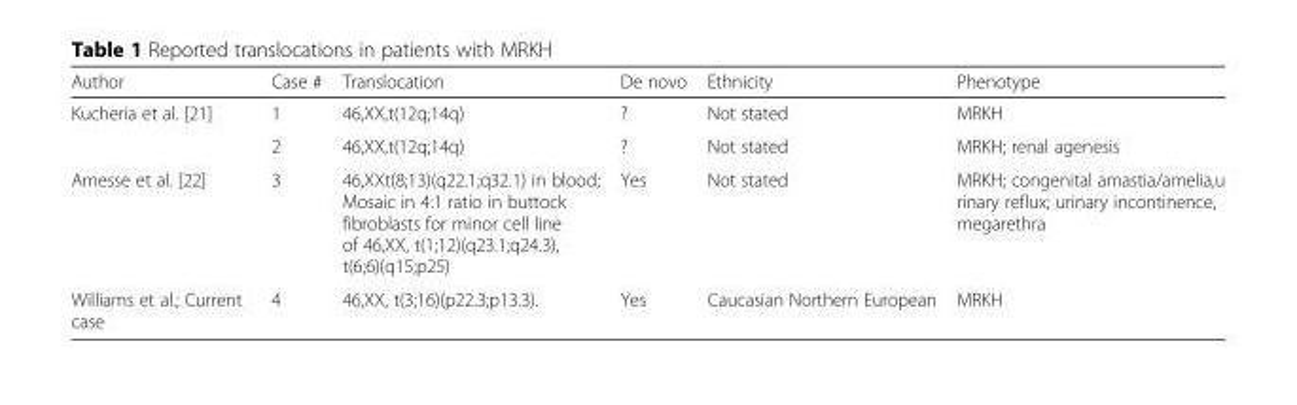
<table><thead><tr><td>Author</td><td>Case #</td><td>Translocation</td><td>De novo</td><td>Ethnicity</td><td>Phenotype</td></tr></thead><tbody><tr><td rowspan="2">Kucheria et al. [21]</td><td>1</td><td>46,XX,t(12q;14q)</td><td>?</td><td>Not stated</td><td>MRKH</td></tr><tr><td>2</td><td>46,XX,t(12q;14q)</td><td>?</td><td>Not stated</td><td>MRKH; renal agenesis</td></tr><tr><td>Amesse et al. [22]</td><td>3</td><td>46,XXt(8;13)(q22.1;q32.1) in blood; Mosaic in 4:1 ratio in buttock fibroblasts for minor cell line of 46,XX, t(1;12)(q23.1;q24.3), t(6;6)(q15;p25)</td><td>Yes</td><td>Not stated</td><td>MRKH; congenital amastia/amelia,u rinary reflux; urinary incontinence, megarethra</td></tr><tr><td>Williams et al.; Current case</td><td>4</td><td>46,XX, t(3;16)(p22.3;p13.3).</td><td>Yes</td><td>Caucasian Northern European</td><td>MRKH</td></tr></tbody></table>